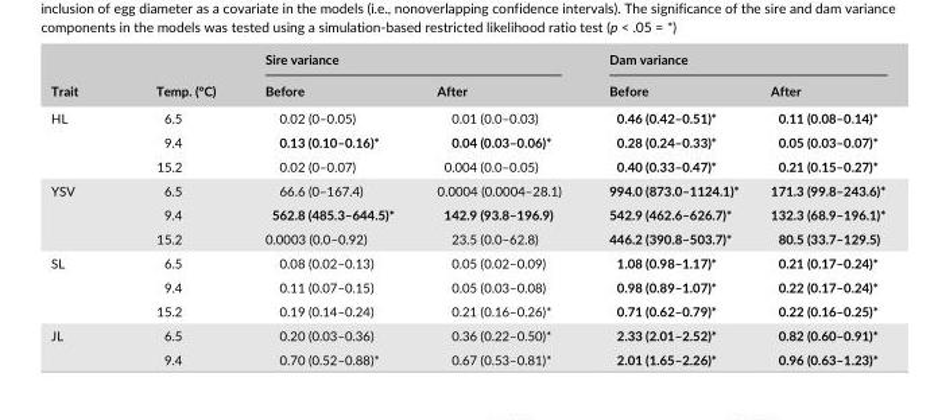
<table><thead><tr><td rowspan="2">Trait</td><td rowspan="2">Temp. (°C)</td><td colspan="2">Sire variance</td><td colspan="2">Dam variance</td></tr><tr><td>Before</td><td>After</td><td>Before</td><td>After</td></tr></thead><tbody><tr><td rowspan="3">HL</td><td>6.5</td><td>0.02 (0–0.05)</td><td>0.01 (0.0–0.03)</td><td>0.46 (0.42–0.51)*</td><td>0.11 (0.08–0.14)*</td></tr><tr><td>9.4</td><td>0.13 (0.10–0.16)*</td><td>0.04 (0.03–0.06)*</td><td>0.28 (0.24–0.33)*</td><td>0.05 (0.03–0.07)*</td></tr><tr><td>15.2</td><td>0.02 (0–0.07)</td><td>0.004 (0.0–0.05)</td><td>0.40 (0.33–0.47)*</td><td>0.21 (0.15–0.27)*</td></tr><tr><td rowspan="3">YSV</td><td>6.5</td><td>66.6 (0–167.4)</td><td>0.0004 (0.0004–28.1)</td><td>994.0 (873.0–1124.1)*</td><td>171.3 (99.8–243.6)*</td></tr><tr><td>9.4</td><td>562.8 (485.3–644.5)*</td><td>142.9 (93.8–196.9)</td><td>542.9 (462.6–626.7)*</td><td>132.3 (68.9–196.1)*</td></tr><tr><td>15.2</td><td>0.0003 (0.0–0.92)</td><td>23.5 (0.0–62.8)</td><td>446.2 (390.8–503.7)*</td><td>80.5 (33.7–129.5)</td></tr><tr><td rowspan="3">SL</td><td>6.5</td><td>0.08 (0.02–0.13)</td><td>0.05 (0.02–0.09)</td><td>1.08 (0.98–1.17)*</td><td>0.21 (0.17–0.24)*</td></tr><tr><td>9.4</td><td>0.11 (0.07–0.15)</td><td>0.05 (0.03–0.08)</td><td>0.98 (0.89–1.07)*</td><td>0.22 (0.17–0.24)*</td></tr><tr><td>15.2</td><td>0.19 (0.14–0.24)</td><td>0.21 (0.16–0.26)*</td><td>0.71 (0.62–0.79)*</td><td>0.22 (0.16–0.25)*</td></tr><tr><td rowspan="2">JL</td><td>6.5</td><td>0.20 (0.03–0.36)</td><td>0.36 (0.22–0.50)*</td><td>2.33 (2.01–2.52)*</td><td>0.82 (0.60–0.91)*</td></tr><tr><td>9.4</td><td>0.70 (0.52–0.88)*</td><td>0.67 (0.53–0.81)*</td><td>2.01 (1.65–2.26)*</td><td>0.96 (0.63–1.23)*</td></tr></tbody></table>